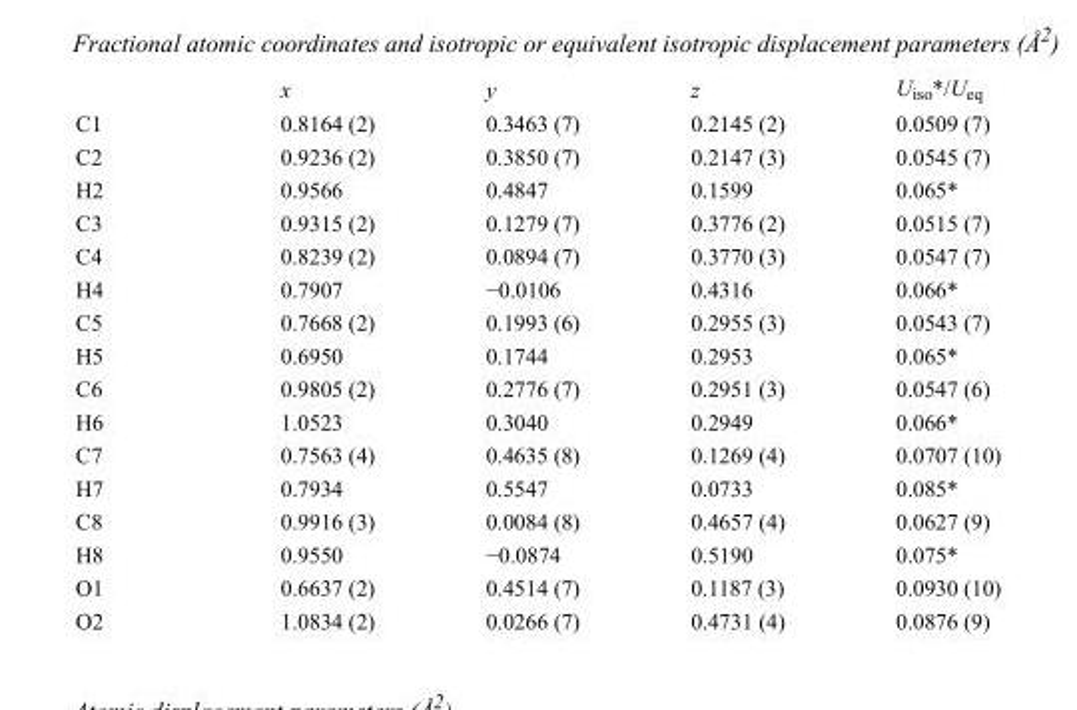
<table><thead><tr><td></td><td>x</td><td>y</td><td>z</td><td>U<sub>iso</sub>*/U<sub>eq</sub></td></tr></thead><tbody><tr><td>C1</td><td>0.8164 (2)</td><td>0.3463 (7)</td><td>0.2145 (2)</td><td>0.0509 (7)</td></tr><tr><td>C2</td><td>0.9236 (2)</td><td>0.3850 (7)</td><td>0.2147 (3)</td><td>0.0545 (7)</td></tr><tr><td>H2</td><td>0.9566</td><td>0.4847</td><td>0.1599</td><td>0.065*</td></tr><tr><td>C3</td><td>0.9315 (2)</td><td>0.1279 (7)</td><td>0.3776 (2)</td><td>0.0515 (7)</td></tr><tr><td>C4</td><td>0.8239 (2)</td><td>0.0894 (7)</td><td>0.3770 (3)</td><td>0.0547 (7)</td></tr><tr><td>H4</td><td>0.7907</td><td>−0.0106</td><td>0.4316</td><td>0.066*</td></tr><tr><td>C5</td><td>0.7668 (2)</td><td>0.1993 (6)</td><td>0.2955 (3)</td><td>0.0543 (7)</td></tr><tr><td>H5</td><td>0.6950</td><td>0.1744</td><td>0.2953</td><td>0.065*</td></tr><tr><td>C6</td><td>0.9805 (2)</td><td>0.2776 (7)</td><td>0.2951 (3)</td><td>0.0547 (6)</td></tr><tr><td>H6</td><td>1.0523</td><td>0.3040</td><td>0.2949</td><td>0.066*</td></tr><tr><td>C7</td><td>0.7563 (4)</td><td>0.4635 (8)</td><td>0.1269 (4)</td><td>0.0707 (10)</td></tr><tr><td>H7</td><td>0.7934</td><td>0.5547</td><td>0.0733</td><td>0.085*</td></tr><tr><td>C8</td><td>0.9916 (3)</td><td>0.0084 (8)</td><td>0.4657 (4)</td><td>0.0627 (9)</td></tr><tr><td>H8</td><td>0.9550</td><td>−0.0874</td><td>0.5190</td><td>0.075*</td></tr><tr><td>O1</td><td>0.6637 (2)</td><td>0.4514 (7)</td><td>0.1187 (3)</td><td>0.0930 (10)</td></tr><tr><td>O2</td><td>1.0834 (2)</td><td>0.0266 (7)</td><td>0.4731 (4)</td><td>0.0876 (9)</td></tr></tbody></table>